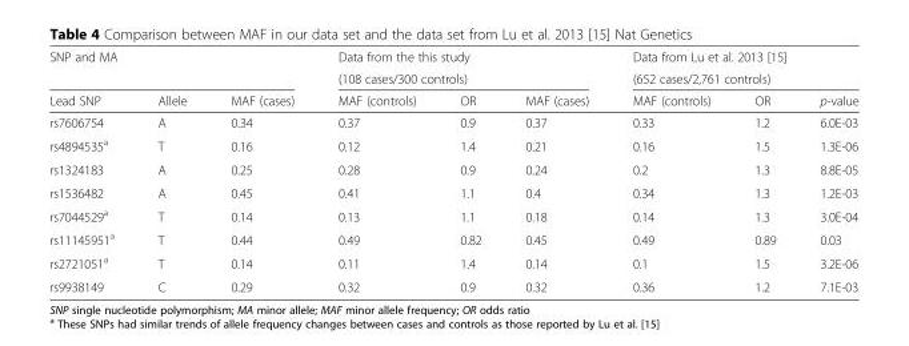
<table><thead><tr><td rowspan="2" colspan="3">SNP and MA</td><td rowspan="2" colspan="3">Data from the this study (108 cases/300 controls)</td><td rowspan="2" colspan="3">Data from Lu et al. 2013 [15] (652 cases/2,761 controls)</td></tr><tr></tr><tr><td>Lead SNP</td><td>Allele</td><td>MAF (cases)</td><td>MAF (controls)</td><td>OR</td><td>MAF (cases)</td><td>MAF (controls)</td><td>OR</td><td>p-value</td></tr></thead><tbody><tr><td>rs7606754</td><td>A</td><td>0.34</td><td>0.37</td><td>0.9</td><td>0.37</td><td>0.33</td><td>1.2</td><td>6.0E-03</td></tr><tr><td>rs4894535<sup>a</sup></td><td>T</td><td>0.16</td><td>0.12</td><td>1.4</td><td>0.21</td><td>0.16</td><td>1.5</td><td>1.3E-06</td></tr><tr><td>rs1324183</td><td>A</td><td>0.25</td><td>0.28</td><td>0.9</td><td>0.24</td><td>0.2</td><td>1.3</td><td>8.8E-05</td></tr><tr><td>rs1536482</td><td>A</td><td>0.45</td><td>0.41</td><td>1.1</td><td>0.4</td><td>0.34</td><td>1.3</td><td>1.2E-03</td></tr><tr><td>rs7044529<sup>a</sup></td><td>T</td><td>0.14</td><td>0.13</td><td>1.1</td><td>0.18</td><td>0.14</td><td>1.3</td><td>3.0E-04</td></tr><tr><td>rs11145951<sup>a</sup></td><td>T</td><td>0.44</td><td>0.49</td><td>0.82</td><td>0.45</td><td>0.49</td><td>0.89</td><td>0.03</td></tr><tr><td>rs2721051<sup>a</sup></td><td>T</td><td>0.14</td><td>0.11</td><td>1.4</td><td>0.14</td><td>0.1</td><td>1.5</td><td>3.2E-06</td></tr><tr><td>rs9938149</td><td>C</td><td>0.29</td><td>0.32</td><td>0.9</td><td>0.32</td><td>0.36</td><td>1.2</td><td>7.1E-03</td></tr></tbody></table>